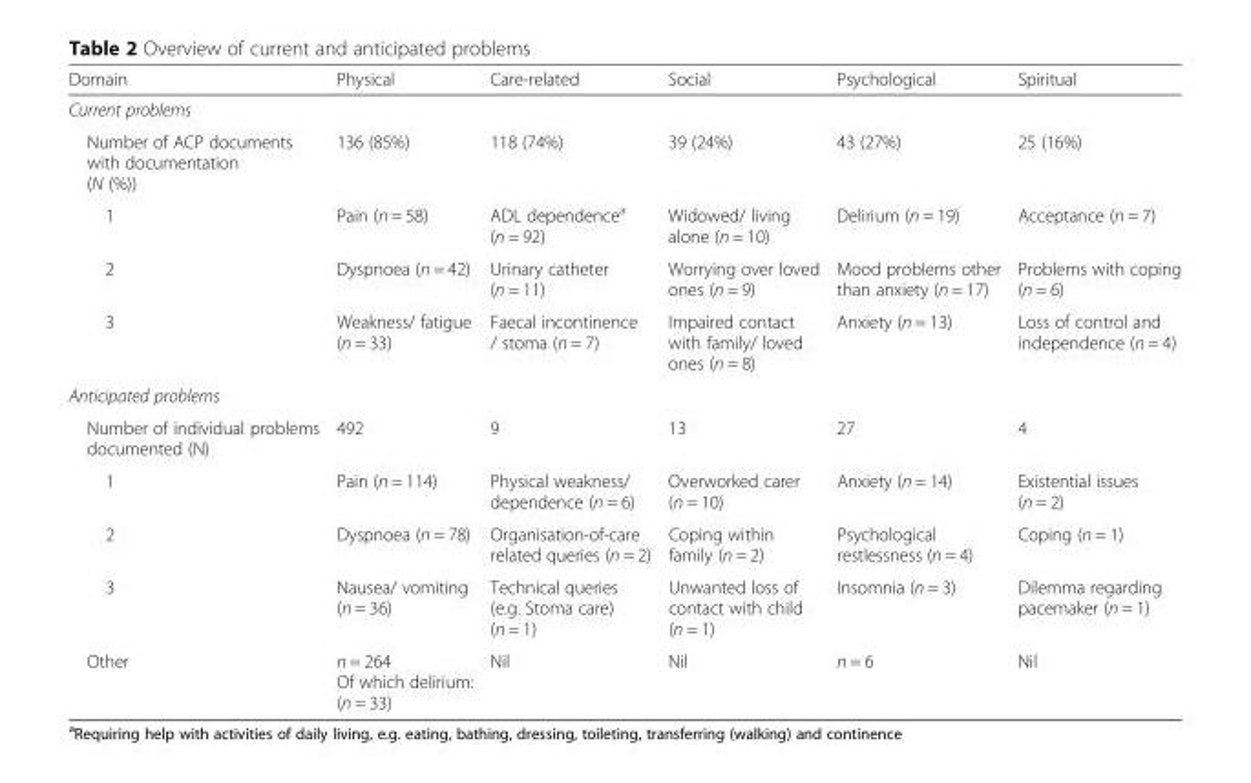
<table><thead><tr><td>Domain</td><td>Physical</td><td>Care-related</td><td>Social</td><td>Psychological</td><td>Spiritual</td></tr></thead><tbody><tr><td colspan="6">Current problems</td></tr><tr><td>Number of ACP documents with documentation (N (%))</td><td>136 (85%)</td><td>118 (74%)</td><td>39 (24%)</td><td>43 (27%)</td><td>25 (16%)</td></tr><tr><td>1</td><td>Pain (n = 58)</td><td>ADL dependence<sup>a</sup> (n = 92)</td><td>Widowed/ living alone (n = 10)</td><td>Delirium (n = 19)</td><td>Acceptance (n = 7)</td></tr><tr><td>2</td><td>Dyspnoea (n = 42)</td><td>Urinary catheter (n = 11)</td><td>Worrying over loved ones (n = 9)</td><td>Mood problems other than anxiety (n = 17)</td><td>Problems with coping (n = 6)</td></tr><tr><td>3</td><td>Weakness/ fatigue (n = 33)</td><td>Faecal incontinence / stoma (n = 7)</td><td>Impaired contact with family/ loved ones (n = 8)</td><td>Anxiety (n = 13)</td><td>Loss of control and independence (n = 4)</td></tr><tr><td colspan="6">Anticipated problems</td></tr><tr><td>Number of individual problems documented (N)</td><td>492</td><td>9</td><td>13</td><td>27</td><td>4</td></tr><tr><td>1</td><td>Pain (n = 114)</td><td>Physical weakness/ dependence (n = 6)</td><td>Overworked carer (n = 10)</td><td>Anxiety (n = 14)</td><td>Existential issues (n = 2)</td></tr><tr><td>2</td><td>Dyspnoea (n = 78)</td><td>Organisation-of-care related queries (n = 2)</td><td>Coping within family (n = 2)</td><td>Psychological restlessness (n = 4)</td><td>Coping (n = 1)</td></tr><tr><td>3</td><td>Nausea/ vomiting (n = 36)</td><td>Technical queries (e.g. Stoma care) (n = 1)</td><td>Unwanted loss of contact with child (n = 1)</td><td>Insomnia (n = 3)</td><td>Dilemma regarding pacemaker (n = 1)</td></tr><tr><td>Other</td><td>n = 264 Of which delirium: (n = 33)</td><td>Nil</td><td>Nil</td><td>n = 6</td><td>Nil</td></tr></tbody></table>